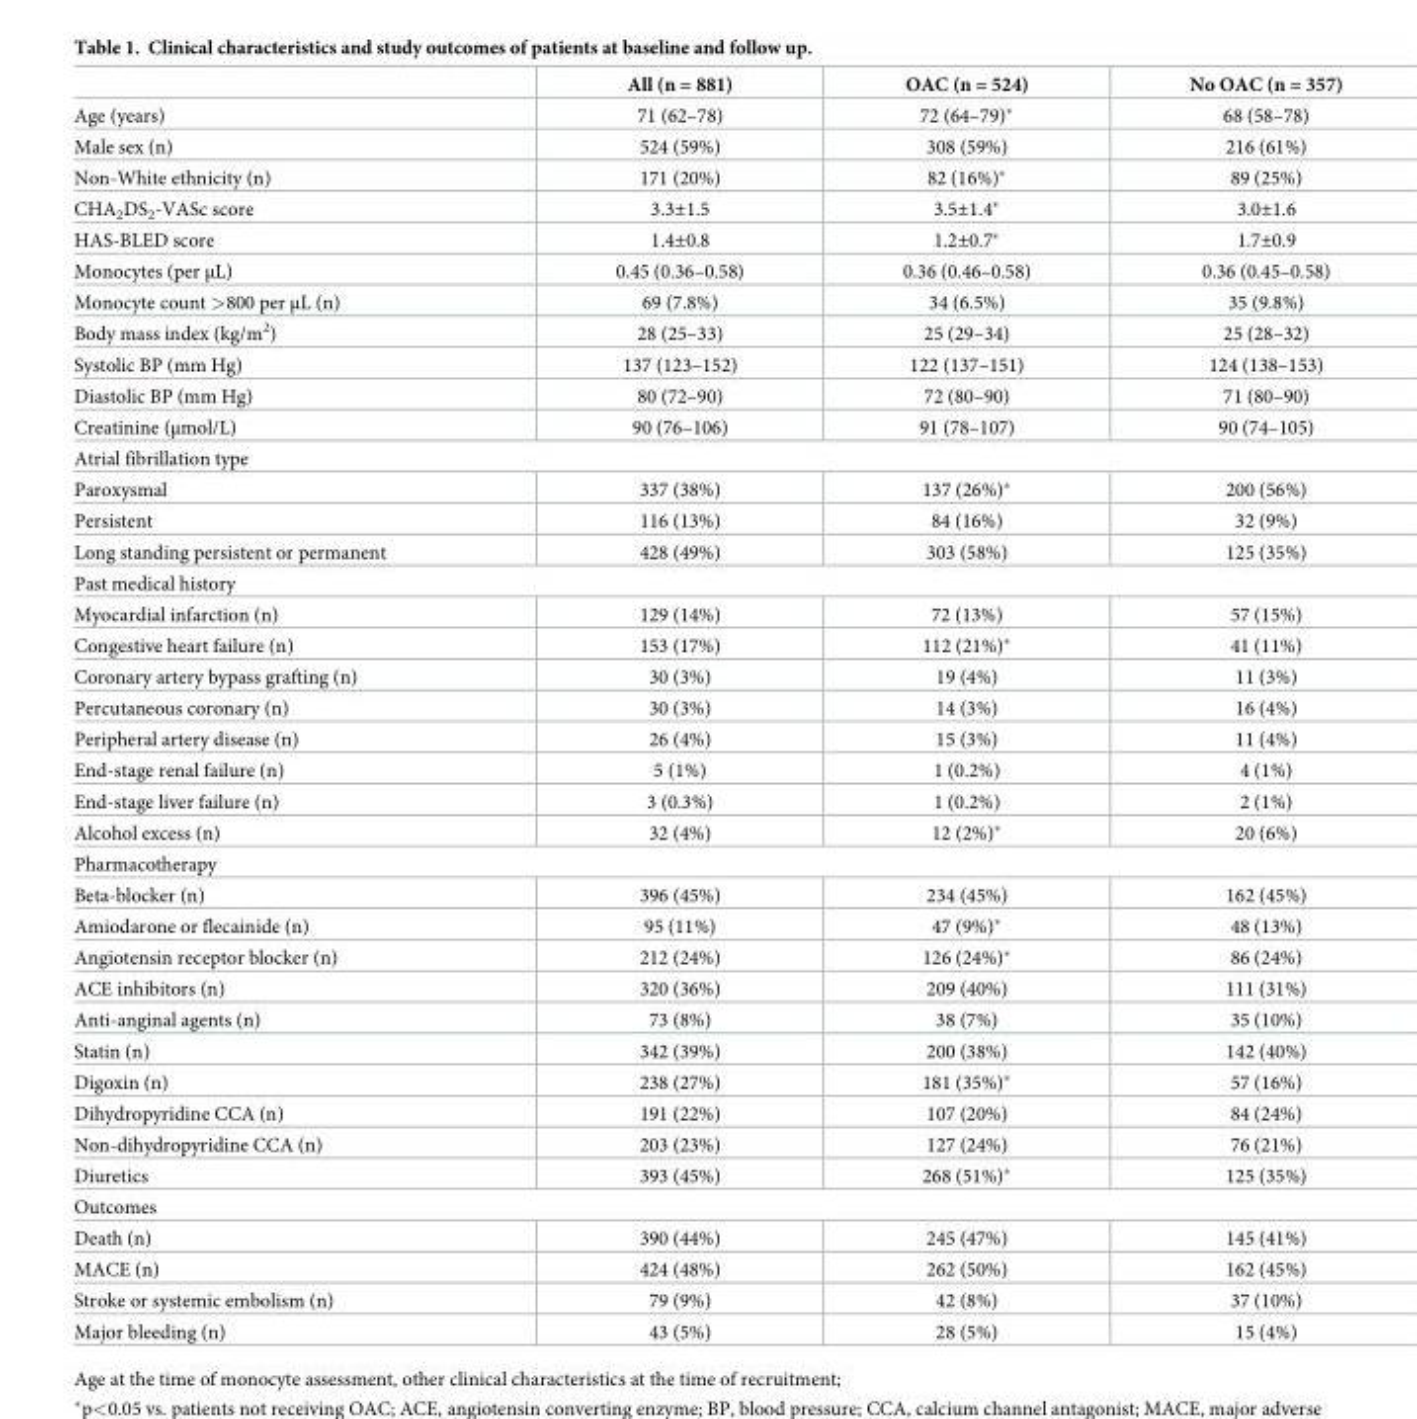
<table><thead><tr><td></td><td>All (n = 881)</td><td>OAC (n = 524)</td><td>No OAC (n = 357)</td></tr></thead><tbody><tr><td>Age (years)</td><td>71 (62–78)</td><td>72 (64–79)*</td><td>68 (58–78)</td></tr><tr><td>Male sex (n)</td><td>524 (59%)</td><td>308 (59%)</td><td>216 (61%)</td></tr><tr><td>Non-White ethnicity (n)</td><td>171 (20%)</td><td>82 (16%)*</td><td>89 (25%)</td></tr><tr><td>CHA<sub>2</sub>DS<sub>2</sub>-VASc score</td><td>3.3±1.5</td><td>3.5±1.4*</td><td>3.0±1.6</td></tr><tr><td>HAS-BLED score</td><td>1.4±0.8</td><td>1.2±0.7*</td><td>1.7±0.9</td></tr><tr><td>Monocytes (per μL)</td><td>0.45 (0.36–0.58)</td><td>0.36 (0.46–0.58)</td><td>0.36 (0.45–0.58)</td></tr><tr><td>Monocyte count &gt;800 per μL (n)</td><td>69 (7.8%)</td><td>34 (6.5%)</td><td>35 (9.8%)</td></tr><tr><td>Body mass index (kg/m<sup>2</sup>)</td><td>28 (25–33)</td><td>25 (29–34)</td><td>25 (28–32)</td></tr><tr><td>Systolic BP (mm Hg)</td><td>137 (123–152)</td><td>122 (137–151)</td><td>124 (138–153)</td></tr><tr><td>Diastolic BP (mm Hg)</td><td>80 (72–90)</td><td>72 (80–90)</td><td>71 (80–90)</td></tr><tr><td>Creatinine (μmol/L)</td><td>90 (76–106)</td><td>91 (78–107)</td><td>90 (74–105)</td></tr><tr><td colspan="4">Atrial fibrillation type</td></tr><tr><td>Paroxysmal</td><td>337 (38%)</td><td>137 (26%)*</td><td>200 (56%)</td></tr><tr><td>Persistent</td><td>116 (13%)</td><td>84 (16%)</td><td>32 (9%)</td></tr><tr><td>Long standing persistent or permanent</td><td>428 (49%)</td><td>303 (58%)</td><td>125 (35%)</td></tr><tr><td colspan="4">Past medical history</td></tr><tr><td>Myocardial infarction (n)</td><td>129 (14%)</td><td>72 (13%)</td><td>57 (15%)</td></tr><tr><td>Congestive heart failure (n)</td><td>153 (17%)</td><td>112 (21%)*</td><td>41 (11%)</td></tr><tr><td>Coronary artery bypass grafting (n)</td><td>30 (3%)</td><td>19 (4%)</td><td>11 (3%)</td></tr><tr><td>Percutaneous coronary (n)</td><td>30 (3%)</td><td>14 (3%)</td><td>16 (4%)</td></tr><tr><td>Peripheral artery disease (n)</td><td>26 (4%)</td><td>15 (3%)</td><td>11 (4%)</td></tr><tr><td>End-stage renal failure (n)</td><td>5 (1%)</td><td>1 (0.2%)</td><td>4 (1%)</td></tr><tr><td>End-stage liver failure (n)</td><td>3 (0.3%)</td><td>1 (0.2%)</td><td>2 (1%)</td></tr><tr><td>Alcohol excess (n)</td><td>32 (4%)</td><td>12 (2%)*</td><td>20 (6%)</td></tr><tr><td colspan="4">Pharmacotherapy</td></tr><tr><td>Beta-blocker (n)</td><td>396 (45%)</td><td>234 (45%)</td><td>162 (45%)</td></tr><tr><td>Amiodarone or flecainide (n)</td><td>95 (11%)</td><td>47 (9%)*</td><td>48 (13%)</td></tr><tr><td>Angiotensin receptor blocker (n)</td><td>212 (24%)</td><td>126 (24%)*</td><td>86 (24%)</td></tr><tr><td>ACE inhibitors (n)</td><td>320 (36%)</td><td>209 (40%)</td><td>111 (31%)</td></tr><tr><td>Anti-anginal agents (n)</td><td>73 (8%)</td><td>38 (7%)</td><td>35 (10%)</td></tr><tr><td>Statin (n)</td><td>342 (39%)</td><td>200 (38%)</td><td>142 (40%)</td></tr><tr><td>Digoxin (n)</td><td>238 (27%)</td><td>181 (35%)*</td><td>57 (16%)</td></tr><tr><td>Dihydropyridine CCA (n)</td><td>191 (22%)</td><td>107 (20%)</td><td>84 (24%)</td></tr><tr><td>Non-dihydropyridine CCA (n)</td><td>203 (23%)</td><td>127 (24%)</td><td>76 (21%)</td></tr><tr><td>Diuretics</td><td>393 (45%)</td><td>268 (51%)*</td><td>125 (35%)</td></tr><tr><td colspan="4">Outcomes</td></tr><tr><td>Death (n)</td><td>390 (44%)</td><td>245 (47%)</td><td>145 (41%)</td></tr><tr><td>MACE (n)</td><td>424 (48%)</td><td>262 (50%)</td><td>162 (45%)</td></tr><tr><td>Stroke or systemic embolism (n)</td><td>79 (9%)</td><td>42 (8%)</td><td>37 (10%)</td></tr><tr><td>Major bleeding (n)</td><td>43 (5%)</td><td>28 (5%)</td><td>15 (4%)</td></tr></tbody></table>